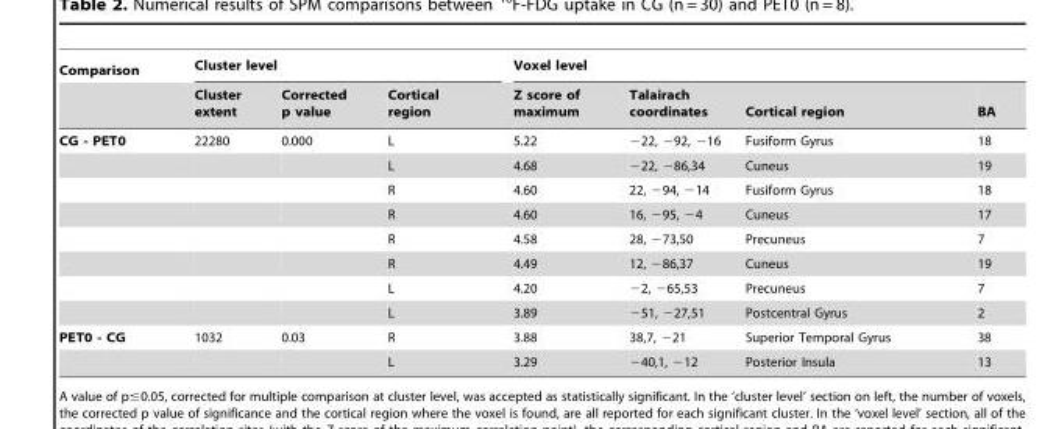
<table><thead><tr><td rowspan="2">Comparison</td><td colspan="3">Cluster level</td><td colspan="4">Voxel level</td></tr><tr><td>Cluster extent</td><td>Corrected p value</td><td>Cortical region</td><td>Z score of maximum</td><td>Talairach coordinates</td><td>Cortical region</td><td>BA</td></tr></thead><tbody><tr><td rowspan="8">CG - PET0</td><td>22280</td><td>0.000</td><td>L</td><td>5.22</td><td>−22, −92, −16</td><td>Fusiform Gyrus</td><td>18</td></tr><tr><td></td><td></td><td>L</td><td>4.68</td><td>−22, −86,34</td><td>Cuneus</td><td>19</td></tr><tr><td></td><td></td><td>R</td><td>4.60</td><td>22, −94, −14</td><td>Fusiform Gyrus</td><td>18</td></tr><tr><td></td><td></td><td>R</td><td>4.60</td><td>16, −95, −4</td><td>Cuneus</td><td>17</td></tr><tr><td></td><td></td><td>R</td><td>4.58</td><td>28, −73,50</td><td>Precuneus</td><td>7</td></tr><tr><td></td><td></td><td>R</td><td>4.49</td><td>12, −86,37</td><td>Cuneus</td><td>19</td></tr><tr><td></td><td></td><td>L</td><td>4.20</td><td>−2, −65,53</td><td>Precuneus</td><td>7</td></tr><tr><td></td><td></td><td>L</td><td>3.89</td><td>−51, −27,51</td><td>Postcentral Gyrus</td><td>2</td></tr><tr><td rowspan="2">PET0 - CG</td><td>1032</td><td>0.03</td><td>R</td><td>3.88</td><td>38,7, −21</td><td>Superior Temporal Gyrus</td><td>38</td></tr><tr><td></td><td></td><td>L</td><td>3.29</td><td>−40,1, −12</td><td>Posterior Insula</td><td>13</td></tr></tbody></table>